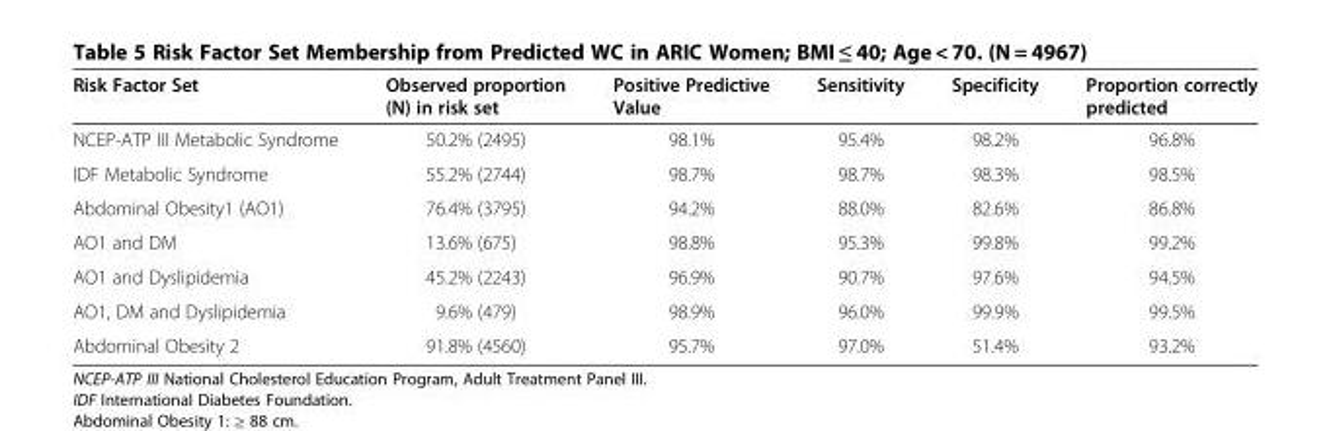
<table><thead><tr><td>Risk Factor Set</td><td>Observed proportion (N) in risk set</td><td>Positive Predictive Value</td><td>Sensitivity</td><td>Specificity</td><td>Proportion correctly predicted</td></tr></thead><tbody><tr><td>NCEP-ATP III Metabolic Syndrome</td><td>50.2% (2495)</td><td>98.1%</td><td>95.4%</td><td>98.2%</td><td>96.8%</td></tr><tr><td>IDF Metabolic Syndrome</td><td>55.2% (2744)</td><td>98.7%</td><td>98.7%</td><td>98.3%</td><td>98.5%</td></tr><tr><td>Abdominal Obesity1 (AO1)</td><td>76.4% (3795)</td><td>94.2%</td><td>88.0%</td><td>82.6%</td><td>86.8%</td></tr><tr><td>AO1 and DM</td><td>13.6% (675)</td><td>98.8%</td><td>95.3%</td><td>99.8%</td><td>99.2%</td></tr><tr><td>AO1 and Dyslipidemia</td><td>45.2% (2243)</td><td>96.9%</td><td>90.7%</td><td>97.6%</td><td>94.5%</td></tr><tr><td>AO1, DM and Dyslipidemia</td><td>9.6% (479)</td><td>98.9%</td><td>96.0%</td><td>99.9%</td><td>99.5%</td></tr><tr><td>Abdominal Obesity 2</td><td>91.8% (4560)</td><td>95.7%</td><td>97.0%</td><td>51.4%</td><td>93.2%</td></tr></tbody></table>